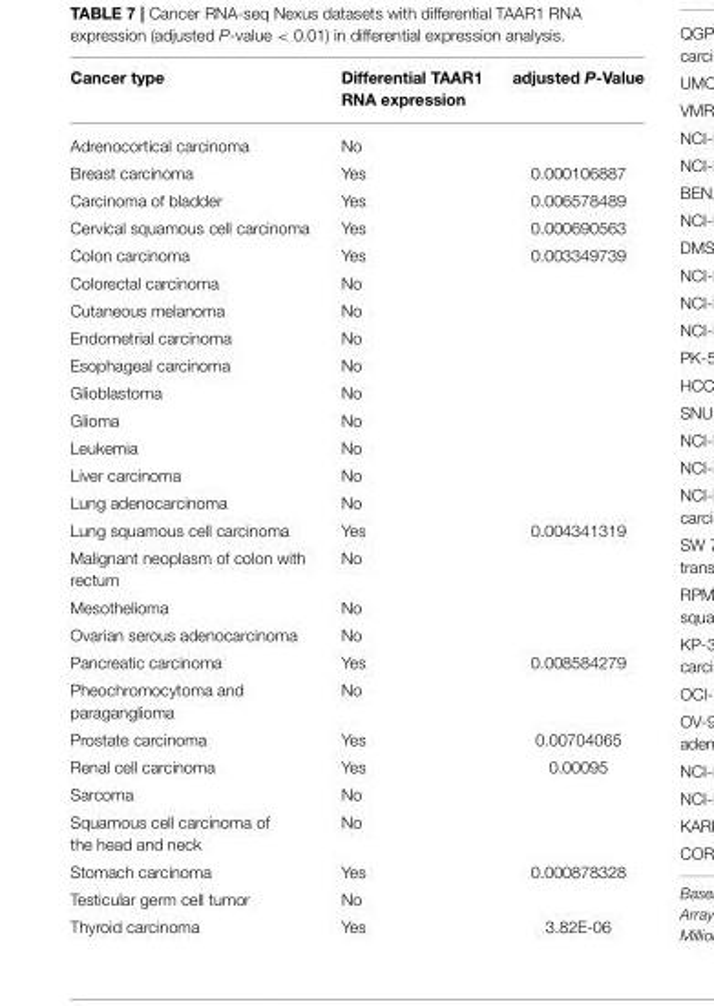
<table><thead><tr><td>Cancer type</td><td>Differential TAAR1 RNA expression</td><td>adjusted P-Value</td></tr></thead><tbody><tr><td>Adrenocortical carcinoma</td><td>No</td><td></td></tr><tr><td>Breast carcinoma</td><td>Yes</td><td>0.000106887</td></tr><tr><td>Carcinoma of bladder</td><td>Yes</td><td>0.006578489</td></tr><tr><td>Cervical squamous cell carcinoma</td><td>Yes</td><td>0.000690563</td></tr><tr><td>Colon carcinoma</td><td>Yes</td><td>0.003349739</td></tr><tr><td>Colorectal carcinoma</td><td>No</td><td></td></tr><tr><td>Cutaneous melanoma</td><td>No</td><td></td></tr><tr><td>Endometrial carcinoma</td><td>No</td><td></td></tr><tr><td>Esophageal carcinoma</td><td>No</td><td></td></tr><tr><td>Glioblastoma</td><td>No</td><td></td></tr><tr><td>Glioma</td><td>No</td><td></td></tr><tr><td>Leukemia</td><td>No</td><td></td></tr><tr><td>Liver carcinoma</td><td>No</td><td></td></tr><tr><td>Lung adenocarcinoma</td><td>No</td><td></td></tr><tr><td>Lung squamous cell carcinoma</td><td>Yes</td><td>0.004341319</td></tr><tr><td>Malignant neoplasm of colon with rectum</td><td>No</td><td></td></tr><tr><td>Mesothelioma</td><td>No</td><td></td></tr><tr><td>Ovarian serous adenocarcinoma</td><td>No</td><td></td></tr><tr><td>Pancreatic carcinoma</td><td>Yes</td><td>0.008584279</td></tr><tr><td>Pheochromocytoma and paraganglioma</td><td>No</td><td></td></tr><tr><td>Prostate carcinoma</td><td>Yes</td><td>0.00704065</td></tr><tr><td>Renal cell carcinoma</td><td>Yes</td><td>0.00095</td></tr><tr><td>Sarcoma</td><td>No</td><td></td></tr><tr><td>Squamous cell carcinoma of the head and neck</td><td>No</td><td></td></tr><tr><td>Stomach carcinoma</td><td>Yes</td><td>0.000878328</td></tr><tr><td>Testicular germ cell tumor</td><td>No</td><td></td></tr><tr><td>Thyroid carcinoma</td><td>Yes</td><td>3.82E-06</td></tr></tbody></table>